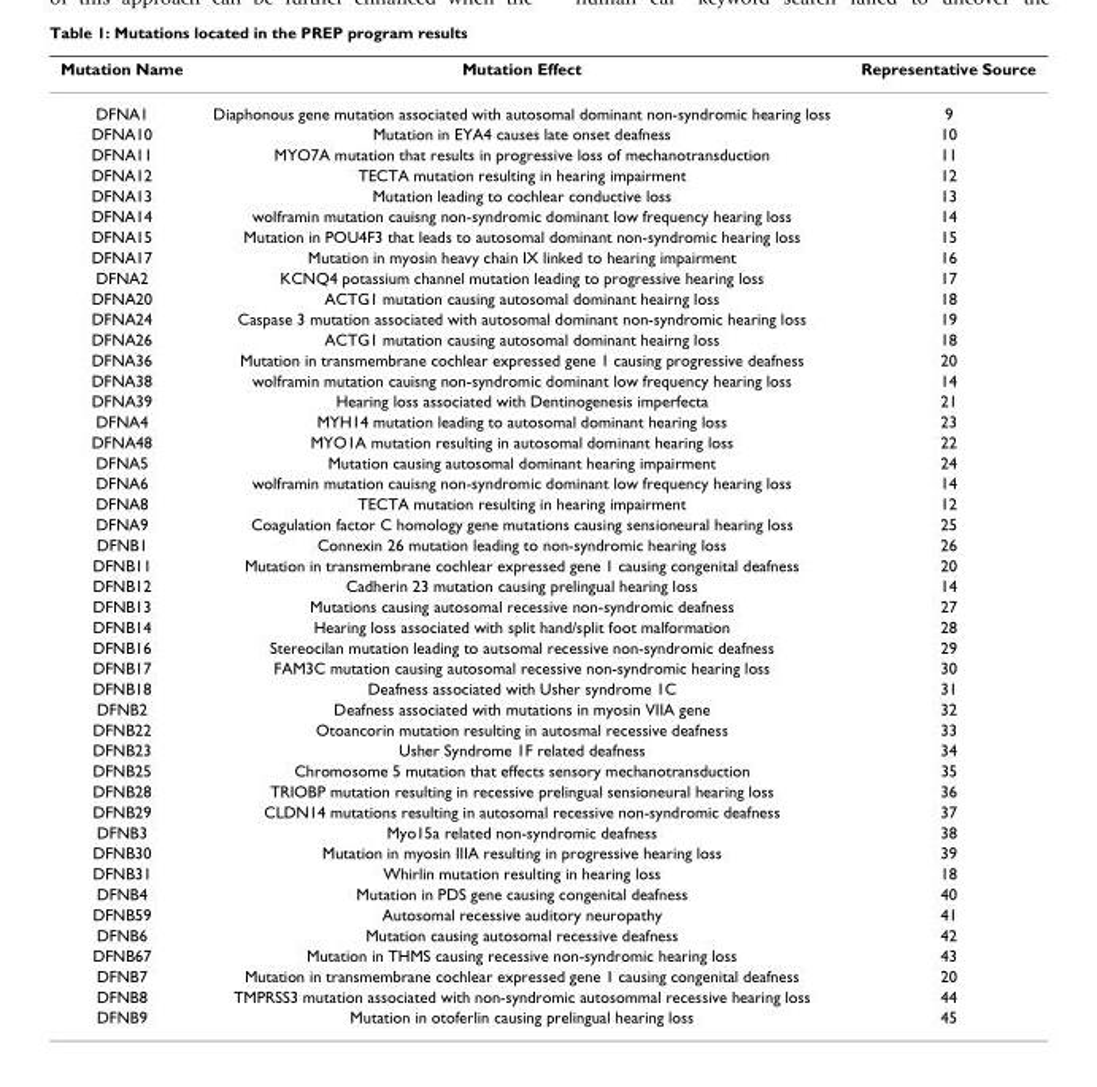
<table><thead><tr><td>Mutation Name</td><td>Mutation Effect</td><td>Representative Source</td></tr></thead><tbody><tr><td>DFNA1</td><td>Diaphonous gene mutation associated with autosomal dominant non-syndromic hearing loss</td><td>9</td></tr><tr><td>DFNA10</td><td>Mutation in EYA4 causes late onset deafness</td><td>10</td></tr><tr><td>DFNA11</td><td>MYO7A mutation that results in progressive loss of mechanotransduction</td><td>11</td></tr><tr><td>DFNA12</td><td>TECTA mutation resulting in hearing impairment</td><td>12</td></tr><tr><td>DFNA13</td><td>Mutation leading to cochlear conductive loss</td><td>13</td></tr><tr><td>DFNA14</td><td>wolframin mutation cauisng non-syndromic dominant low frequency hearing loss</td><td>14</td></tr><tr><td>DFNA15</td><td>Mutation in POU4F3 that leads to autosomal dominant non-syndromic hearing loss</td><td>15</td></tr><tr><td>DFNA17</td><td>Mutation in myosin heavy chain IX linked to hearing impairment</td><td>16</td></tr><tr><td>DFNA2</td><td>KCNQ4 potassium channel mutation leading to progressive hearing loss</td><td>17</td></tr><tr><td>DFNA20</td><td>ACTG1 mutation causing autosomal dominant heairng loss</td><td>18</td></tr><tr><td>DFNA24</td><td>Caspase 3 mutation associated with autosomal dominant non-syndromic hearing loss</td><td>19</td></tr><tr><td>DFNA26</td><td>ACTG1 mutation causing autosomal dominant heairng loss</td><td>18</td></tr><tr><td>DFNA36</td><td>Mutation in transmembrane cochlear expressed gene 1 causing progressive deafness</td><td>20</td></tr><tr><td>DFNA38</td><td>wolframin mutation cauisng non-syndromic dominant low frequency hearing loss</td><td>14</td></tr><tr><td>DFNA39</td><td>Hearing loss associated with Dentinogenesis imperfecta</td><td>21</td></tr><tr><td>DFNA4</td><td>MYH14 mutation leading to autosomal dominant hearing loss</td><td>23</td></tr><tr><td>DFNA48</td><td>MYO1A mutation resulting in autosomal dominant hearing loss</td><td>22</td></tr><tr><td>DFNA5</td><td>Mutation causing autosomal dominant hearing impairment</td><td>24</td></tr><tr><td>DFNA6</td><td>wolframin mutation cauisng non-syndromic dominant low frequency hearing loss</td><td>14</td></tr><tr><td>DFNA8</td><td>TECTA mutation resulting in hearing impairment</td><td>12</td></tr><tr><td>DFNA9</td><td>Coagulation factor C homology gene mutations causing sensioneural hearing loss</td><td>25</td></tr><tr><td>DFNB1</td><td>Connexin 26 mutation leading to non-syndromic hearing loss</td><td>26</td></tr><tr><td>DFNB11</td><td>Mutation in transmembrane cochlear expressed gene 1 causing congenital deafness</td><td>20</td></tr><tr><td>DFNB12</td><td>Cadherin 23 mutation causing prelingual hearing loss</td><td>14</td></tr><tr><td>DFNB13</td><td>Mutations causing autosomal recessive non-syndromic deafness</td><td>27</td></tr><tr><td>DFNB14</td><td>Hearing loss associated with split hand/split foot malformation</td><td>28</td></tr><tr><td>DFNB16</td><td>Stereocilan mutation leading to autsomal recessive non-syndromic deafness</td><td>29</td></tr><tr><td>DFNB17</td><td>FAM3C mutation causing autosomal recessive non-syndromic hearing loss</td><td>30</td></tr><tr><td>DFNB18</td><td>Deafness associated with Usher syndrome 1C</td><td>31</td></tr><tr><td>DFNB2</td><td>Deafness associated with mutations in myosin VIIA gene</td><td>32</td></tr><tr><td>DFNB22</td><td>Otoancorin mutation resulting in autosmal recessive deafness</td><td>33</td></tr><tr><td>DFNB23</td><td>Usher Syndrome 1F related deafness</td><td>34</td></tr><tr><td>DFNB25</td><td>Chromosome 5 mutation that effects sensory mechanotransduction</td><td>35</td></tr><tr><td>DFNB28</td><td>TRIOBP mutation resulting in recessive prelingual sensioneural hearing loss</td><td>36</td></tr><tr><td>DFNB29</td><td>CLDN14 mutations resulting in autosomal recessive non-syndromic deafness</td><td>37</td></tr><tr><td>DFNB3</td><td>Myo15a related non-syndromic deafness</td><td>38</td></tr><tr><td>DFNB30</td><td>Mutation in myosin IIIA resulting in progressive hearing loss</td><td>39</td></tr><tr><td>DFNB31</td><td>Whirlin mutation resulting in hearing loss</td><td>18</td></tr><tr><td>DFNB4</td><td>Mutation in PDS gene causing congenital deafness</td><td>40</td></tr><tr><td>DFNB59</td><td>Autosomal recessive auditory neuropathy</td><td>41</td></tr><tr><td>DFNB6</td><td>Mutation causing autosomal recessive deafness</td><td>42</td></tr><tr><td>DFNB67</td><td>Mutation in THMS causing recessive non-syndromic hearing loss</td><td>43</td></tr><tr><td>DFNB7</td><td>Mutation in transmembrane cochlear expressed gene 1 causing congenital deafness</td><td>20</td></tr><tr><td>DFNB8</td><td>TMPRSS3 mutation associated with non-syndromic autosommal recessive hearing loss</td><td>44</td></tr><tr><td>DFNB9</td><td>Mutation in otoferlin causing prelingual hearing loss</td><td>45</td></tr></tbody></table>